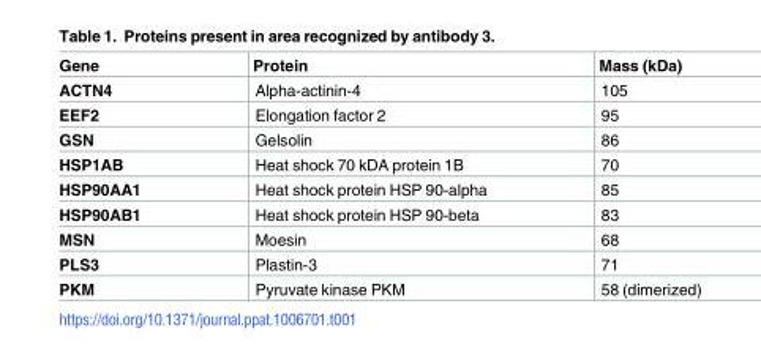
<table><thead><tr><td>Gene</td><td>Protein</td><td>Mass (kDa)</td></tr></thead><tbody><tr><td>ACTN4</td><td>Alpha-actinin-4</td><td>105</td></tr><tr><td>EEF2</td><td>Elongation factor 2</td><td>95</td></tr><tr><td>GSN</td><td>Gelsolin</td><td>86</td></tr><tr><td>HSP1AB</td><td>Heat shock 70 kDA protein 1B</td><td>70</td></tr><tr><td>HSP90AA1</td><td>Heat shock protein HSP 90-alpha</td><td>85</td></tr><tr><td>HSP90AB1</td><td>Heat shock protein HSP 90-beta</td><td>83</td></tr><tr><td>MSN</td><td>Moesin</td><td>68</td></tr><tr><td>PLS3</td><td>Plastin-3</td><td>71</td></tr><tr><td>PKM</td><td>Pyruvate kinase PKM</td><td>58 (dimerized)</td></tr></tbody></table>